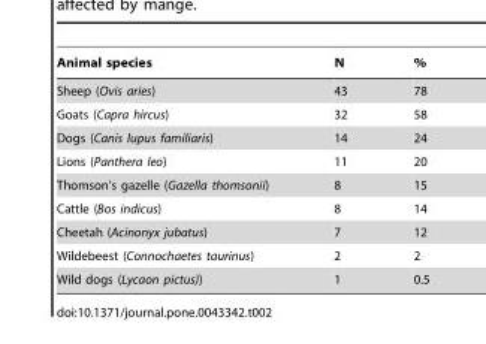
<table><thead><tr><td>Animal species</td><td>N</td><td>%</td></tr></thead><tbody><tr><td>Sheep (Ovis aries)</td><td>43</td><td>78</td></tr><tr><td>Goats (Capra hircus)</td><td>32</td><td>58</td></tr><tr><td>Dogs (Canis lupus familiaris)</td><td>14</td><td>24</td></tr><tr><td>Lions (Panthera leo)</td><td>11</td><td>20</td></tr><tr><td>Thomson’s gazelle (Gazella thomsonii)</td><td>8</td><td>15</td></tr><tr><td>Cattle (Bos indicus)</td><td>8</td><td>14</td></tr><tr><td>Cheetah (Acinonyx jubatus)</td><td>7</td><td>12</td></tr><tr><td>Wildebeest (Connochaetes taurinus)</td><td>2</td><td>2</td></tr><tr><td>Wild dogs (Lycaon pictus))</td><td>1</td><td>0.5</td></tr></tbody></table>